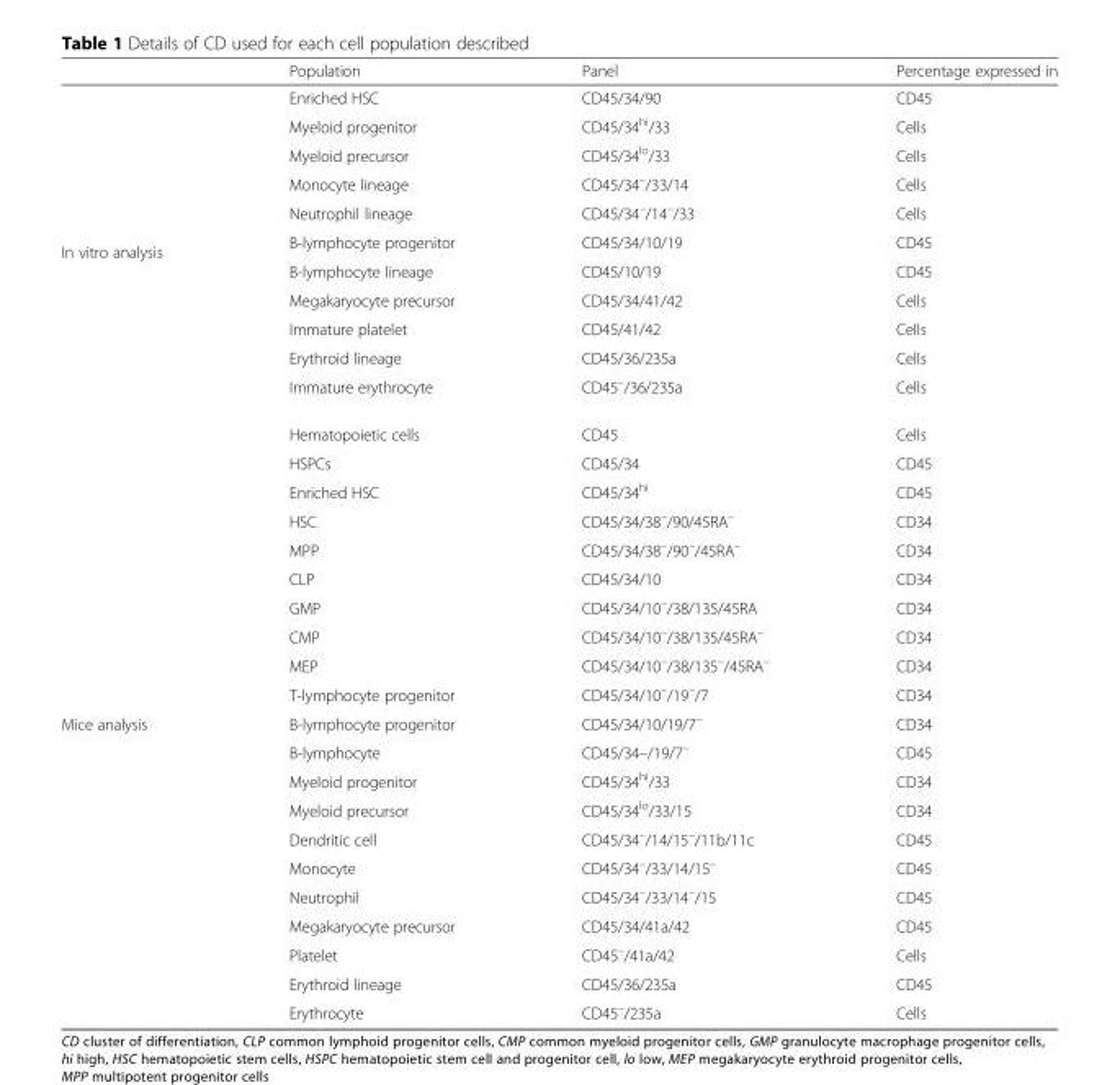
<table><thead><tr><td></td><td>Population</td><td>Panel</td><td>Percentage expressed in</td></tr></thead><tbody><tr><td rowspan="11">In vitro analysis</td><td>Enriched HSC</td><td>CD45/34/90</td><td>CD45</td></tr><tr><td>Myeloid progenitor</td><td>CD45/34<sup>hi</sup>/33</td><td>Cells</td></tr><tr><td>Myeloid precursor</td><td>CD45/34<sup>lo</sup>/33</td><td>Cells</td></tr><tr><td>Monocyte lineage</td><td>CD45/34<sup>–</sup>/33/14</td><td>Cells</td></tr><tr><td>Neutrophil lineage</td><td>CD45/34<sup>–</sup>/14<sup>–</sup>/33</td><td>Cells</td></tr><tr><td>B-lymphocyte progenitor</td><td>CD45/34/10/19</td><td>CD45</td></tr><tr><td>B-lymphocyte lineage</td><td>CD45/10/19</td><td>CD45</td></tr><tr><td>Megakaryocyte precursor</td><td>CD45/34/41/42</td><td>Cells</td></tr><tr><td>Immature platelet</td><td>CD45/41/42</td><td>Cells</td></tr><tr><td>Erythroid lineage</td><td>CD45/36/235a</td><td>Cells</td></tr><tr><td>Immature erythrocyte</td><td>CD45<sup>–</sup>/36/235a</td><td>Cells</td></tr><tr><td rowspan="21">Mice analysis</td><td>Hematopoietic cells</td><td>CD45</td><td>Cells</td></tr><tr><td>HSPCs</td><td>CD45/34</td><td>CD45</td></tr><tr><td>Enriched HSC</td><td>CD45/34<sup>hi</sup></td><td>CD45</td></tr><tr><td>HSC</td><td>CD45/34/38<sup>–</sup>/90/45RA<sup>–</sup></td><td>CD34</td></tr><tr><td>MPP</td><td>CD45/34/38<sup>–</sup>/90<sup>–</sup>/45RA<sup>–</sup></td><td>CD34</td></tr><tr><td>CLP</td><td>CD45/34/10</td><td>CD34</td></tr><tr><td>GMP</td><td>CD45/34/10<sup>–</sup>/38/135/45RA</td><td>CD34</td></tr><tr><td>CMP</td><td>CD45/34/10<sup>–</sup>/38/135/45RA<sup>–</sup></td><td>CD34</td></tr><tr><td>MEP</td><td>CD45/34/10<sup>–</sup>/38/135<sup>–</sup>/45RA<sup>–</sup></td><td>CD34</td></tr><tr><td>T-lymphocyte progenitor</td><td>CD45/34/10<sup>–</sup>/19<sup>–</sup>/7</td><td>CD34</td></tr><tr><td>B-lymphocyte progenitor</td><td>CD45/34/10/19/7<sup>–</sup></td><td>CD34</td></tr><tr><td>B-lymphocyte</td><td>CD45/34–/19/7<sup>–</sup></td><td>CD45</td></tr><tr><td>Myeloid progenitor</td><td>CD45/34<sup>hi</sup>/33</td><td>CD34</td></tr><tr><td>Myeloid precursor</td><td>CD45/34<sup>lo</sup>/33/15</td><td>CD34</td></tr><tr><td>Dendritic cell</td><td>CD45/34<sup>–</sup>/14/15<sup>–</sup>/11b/11c</td><td>CD45</td></tr><tr><td>Monocyte</td><td>CD45/34<sup>–</sup>/33/14/15<sup>–</sup></td><td>CD45</td></tr><tr><td>Neutrophil</td><td>CD45/34<sup>–</sup>/33/14<sup>–</sup>/15</td><td>CD45</td></tr><tr><td>Megakaryocyte precursor</td><td>CD45/34/41a/42</td><td>CD45</td></tr><tr><td>Platelet</td><td>CD45<sup>–</sup>/41a/42</td><td>Cells</td></tr><tr><td>Erythroid lineage</td><td>CD45/36/235a</td><td>CD45</td></tr><tr><td>Erythrocyte</td><td>CD45<sup>–</sup>/235a</td><td>Cells</td></tr></tbody></table>